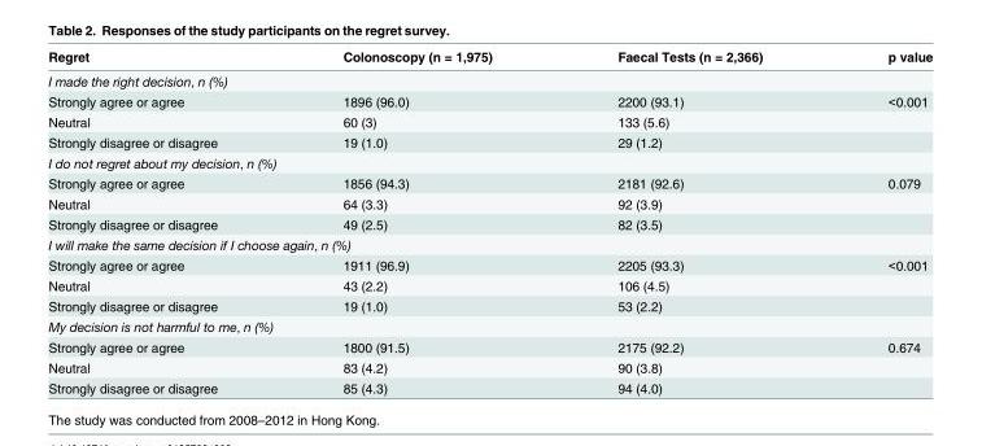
<table><thead><tr><td>Regret</td><td>Colonoscopy (n = 1,975)</td><td>Faecal Tests (n = 2,366)</td><td>p value</td></tr></thead><tbody><tr><td colspan="4">I made the right decision, n (%)</td></tr><tr><td>Strongly agree or agree</td><td>1896 (96.0)</td><td>2200 (93.1)</td><td>&lt;0.001</td></tr><tr><td>Neutral</td><td>60 (3)</td><td>133 (5.6)</td><td></td></tr><tr><td>Strongly disagree or disagree</td><td>19 (1.0)</td><td>29 (1.2)</td><td></td></tr><tr><td colspan="4">I do not regret about my decision, n (%)</td></tr><tr><td>Strongly agree or agree</td><td>1856 (94.3)</td><td>2181 (92.6)</td><td>0.079</td></tr><tr><td>Neutral</td><td>64 (3.3)</td><td>92 (3.9)</td><td></td></tr><tr><td>Strongly disagree or disagree</td><td>49 (2.5)</td><td>82 (3.5)</td><td></td></tr><tr><td colspan="4">I will make the same decision if I choose again, n (%)</td></tr><tr><td>Strongly agree or agree</td><td>1911 (96.9)</td><td>2205 (93.3)</td><td>&lt;0.001</td></tr><tr><td>Neutral</td><td>43 (2.2)</td><td>106 (4.5)</td><td></td></tr><tr><td>Strongly disagree or disagree</td><td>19 (1.0)</td><td>53 (2.2)</td><td></td></tr><tr><td colspan="4">My decision is not harmful to me, n (%)</td></tr><tr><td>Strongly agree or agree</td><td>1800 (91.5)</td><td>2175 (92.2)</td><td>0.674</td></tr><tr><td>Neutral</td><td>83 (4.2)</td><td>90 (3.8)</td><td></td></tr><tr><td>Strongly disagree or disagree</td><td>85 (4.3)</td><td>94 (4.0)</td><td></td></tr></tbody></table>